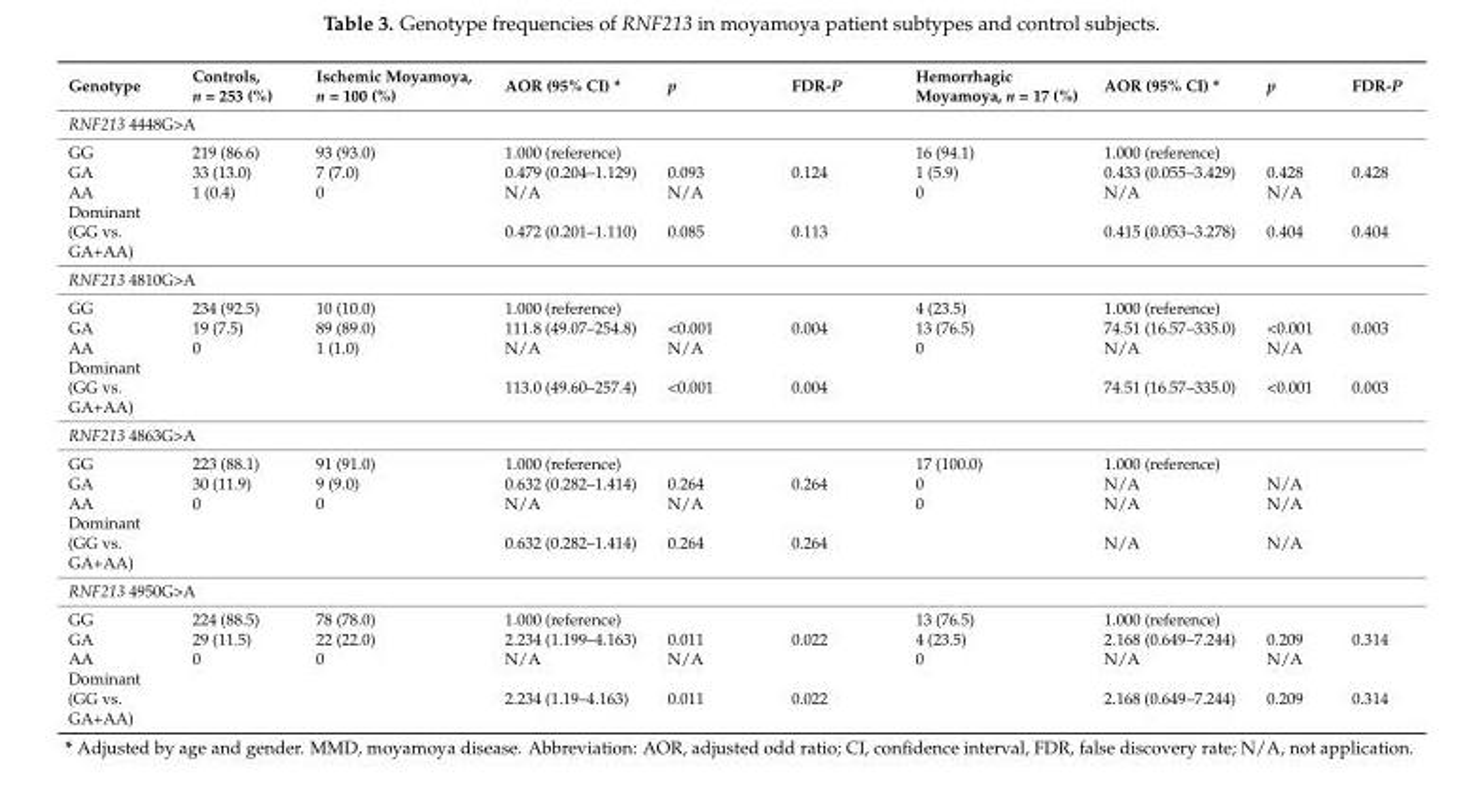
<table><thead><tr><td>Genotype</td><td>Controls, n = 253 (%)</td><td>Ischemic Moyamoya, n = 100 (%)</td><td>AOR (95% CI) *</td><td>p</td><td>FDR-P</td><td>Hemorrhagic Moyamoya, n = 17 (%)</td><td>AOR (95% CI) *</td><td>p</td><td>FDR-P</td></tr></thead><tbody><tr><td colspan="10">RNF213 4448G&gt;A</td></tr><tr><td>GG</td><td>219 (86.6)</td><td>93 (93.0)</td><td>1.000 (reference)</td><td></td><td></td><td>16 (94.1)</td><td>1.000 (reference)</td><td></td><td></td></tr><tr><td>GA</td><td>33 (13.0)</td><td>7 (7.0)</td><td>0.479 (0.204–1.129)</td><td>0.093</td><td>0.124</td><td>1 (5.9)</td><td>0.433 (0.055–3.429)</td><td>0.428</td><td>0.428</td></tr><tr><td>AA</td><td>1 (0.4)</td><td>0</td><td>N/A</td><td>N/A</td><td></td><td>0</td><td>N/A</td><td>N/A</td><td></td></tr><tr><td>Dominant (GG vs. GA+AA)</td><td></td><td></td><td>0.472 (0.201–1.110)</td><td>0.085</td><td>0.113</td><td></td><td>0.415 (0.053–3.278)</td><td>0.404</td><td>0.404</td></tr><tr><td colspan="10">RNF213 4810G&gt;A</td></tr><tr><td>GG</td><td>234 (92.5)</td><td>10 (10.0)</td><td>1.000 (reference)</td><td></td><td></td><td>4 (23.5)</td><td>1.000 (reference)</td><td></td><td></td></tr><tr><td>GA</td><td>19 (7.5)</td><td>89 (89.0)</td><td>111.8 (49.07–254.8)</td><td>&lt;0.001</td><td>0.004</td><td>13 (76.5)</td><td>74.51 (16.57–335.0)</td><td>&lt;0.001</td><td>0.003</td></tr><tr><td>AA</td><td>0</td><td>1 (1.0)</td><td>N/A</td><td>N/A</td><td></td><td>0</td><td>N/A</td><td>N/A</td><td></td></tr><tr><td>Dominant (GG vs. GA+AA)</td><td></td><td></td><td>113.0 (49.60–257.4)</td><td>&lt;0.001</td><td>0.004</td><td></td><td>74.51 (16.57–335.0)</td><td>&lt;0.001</td><td>0.003</td></tr><tr><td colspan="10">RNF213 4863G&gt;A</td></tr><tr><td>GG</td><td>223 (88.1)</td><td>91 (91.0)</td><td>1.000 (reference)</td><td></td><td></td><td>17 (100.0)</td><td>1.000 (reference)</td><td></td><td></td></tr><tr><td>GA</td><td>30 (11.9)</td><td>9 (9.0)</td><td>0.632 (0.282–1.414)</td><td>0.264</td><td>0.264</td><td>0</td><td>N/A</td><td>N/A</td><td></td></tr><tr><td>AA</td><td>0</td><td>0</td><td>N/A</td><td>N/A</td><td></td><td>0</td><td>N/A</td><td>N/A</td><td></td></tr><tr><td>Dominant (GG vs. GA+AA)</td><td></td><td></td><td>0.632 (0.282–1.414)</td><td>0.264</td><td>0.264</td><td></td><td>N/A</td><td>N/A</td><td></td></tr><tr><td colspan="10">RNF213 4950G&gt;A</td></tr><tr><td>GG</td><td>224 (88.5)</td><td>78 (78.0)</td><td>1.000 (reference)</td><td></td><td></td><td>13 (76.5)</td><td>1.000 (reference)</td><td></td><td></td></tr><tr><td>GA</td><td>29 (11.5)</td><td>22 (22.0)</td><td>2.234 (1.199–4.163)</td><td>0.011</td><td>0.022</td><td>4 (23.5)</td><td>2.168 (0.649–7.244)</td><td>0.209</td><td>0.314</td></tr><tr><td>AA</td><td>0</td><td>0</td><td>N/A</td><td>N/A</td><td></td><td>0</td><td>N/A</td><td>N/A</td><td></td></tr><tr><td>Dominant (GG vs. GA+AA)</td><td></td><td></td><td>2.234 (1.19–4.163)</td><td>0.011</td><td>0.022</td><td></td><td>2.168 (0.649–7.244)</td><td>0.209</td><td>0.314</td></tr></tbody></table>